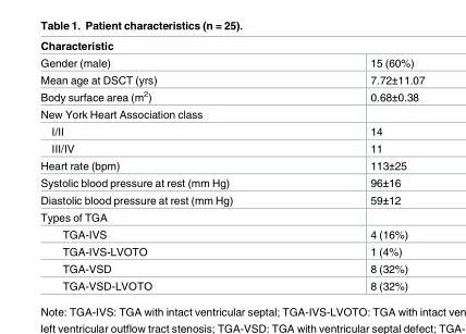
<table><thead><tr><td colspan="2">Characteristic</td></tr><tr><td>Gender (male)</td><td>15 (60%)</td></tr></thead><tbody><tr><td>Mean age at DSCT (yrs)</td><td>7.72±11.07</td></tr><tr><td>Body surface area (m<sup>2</sup>)</td><td>0.68±0.38</td></tr><tr><td colspan="2">New York Heart Association class</td></tr><tr><td>I/II</td><td>14</td></tr><tr><td>III/IV</td><td>11</td></tr><tr><td>Heart rate (bpm)</td><td>113±25</td></tr><tr><td>Systolic blood pressure at rest (mm Hg)</td><td>96±16</td></tr><tr><td>Diastolic blood pressure at rest (mm Hg)</td><td>59±12</td></tr><tr><td colspan="2">Types of TGA</td></tr><tr><td>TGA-IVS</td><td>4 (16%)</td></tr><tr><td>TGA-IVS-LVOTO</td><td>1 (4%)</td></tr><tr><td>TGA-VSD</td><td>8 (32%)</td></tr><tr><td>TGA-VSD-LVOTO</td><td>8 (32%)</td></tr></tbody></table>